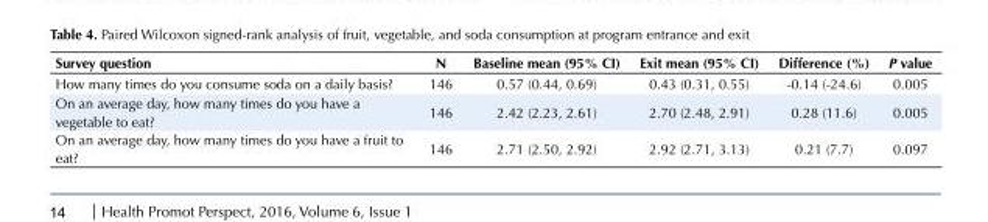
<table><tbody><tr><td>Survey question</td><td>N</td><td>Baseline mean (95% CI)</td><td>Exit mean (95% CI)</td><td>Difference (%)</td><td>P value</td></tr><tr><td>How many times do you consume soda on a daily basis?</td><td>146</td><td>0.57 (0.44, 0.69)</td><td>0.43 (0.31, 0.55)</td><td>-0.14 (-24.6)</td><td>0.005</td></tr><tr><td>On an average day, how many times do you have a vegetable to eat?</td><td>146</td><td>2.42 (2.23, 2.61)</td><td>2.70 (2.48, 2.91)</td><td>0.28 (11.6)</td><td>0.005</td></tr><tr><td>On an average day, how many times do you have a fruit to eat?</td><td>146</td><td>2.71 (2.50, 2.92)</td><td>2.92 (2.71, 3.13)</td><td>0.21 (7.7)</td><td>0.097</td></tr></tbody></table>